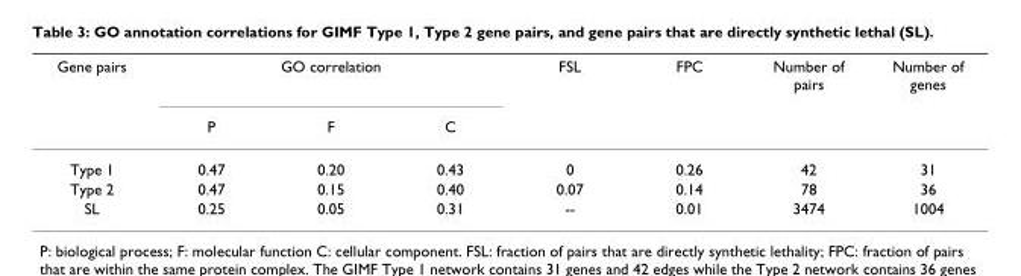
<table><thead><tr><td rowspan="2">Gene pairs</td><td colspan="3">GO correlation</td><td rowspan="2">FSL</td><td rowspan="2">FPC</td><td rowspan="2">Number of pairs</td><td rowspan="2">Number of genes</td></tr><tr><td>P</td><td>F</td><td>C</td></tr></thead><tbody><tr><td>Type 1</td><td>0.47</td><td>0.20</td><td>0.43</td><td>0</td><td>0.26</td><td>42</td><td>31</td></tr><tr><td>Type 2</td><td>0.47</td><td>0.15</td><td>0.40</td><td>0.07</td><td>0.14</td><td>78</td><td>36</td></tr><tr><td>SL</td><td>0.25</td><td>0.05</td><td>0.31</td><td>--</td><td>0.01</td><td>3474</td><td>1004</td></tr></tbody></table>